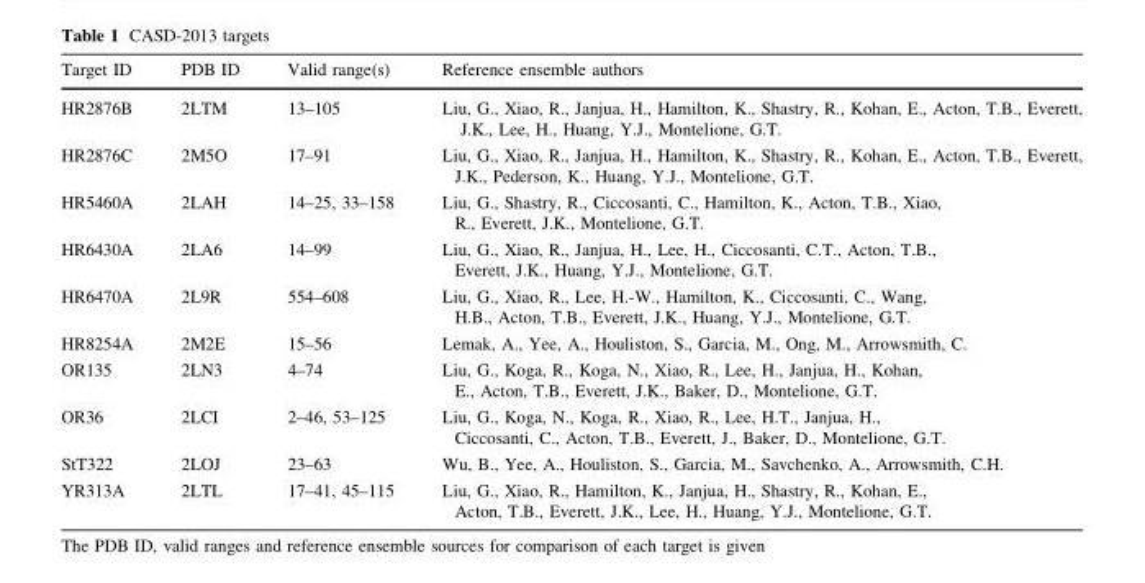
<table><thead><tr><td>Target ID</td><td>PDB ID</td><td>Valid range(s)</td><td>Reference ensemble authors</td></tr></thead><tbody><tr><td>HR2876B</td><td>2LTM</td><td>13–105</td><td>Liu, G., Xiao, R., Janjua, H., Hamilton, K., Shastry, R., Kohan, E., Acton, T.B., Everett, J.K., Lee, H., Huang, Y.J., Montelione, G.T.</td></tr><tr><td>HR2876C</td><td>2M5O</td><td>17–91</td><td>Liu, G., Xiao, R., Janjua, H., Hamilton, K., Shastry, R., Kohan, E., Acton, T.B., Everett, J.K., Pederson, K., Huang, Y.J., Montelione, G.T.</td></tr><tr><td>HR5460A</td><td>2LAH</td><td>14–25, 33–158</td><td>Liu, G., Shastry, R., Ciccosanti, C., Hamilton, K., Acton, T.B., Xiao, R., Everett, J.K., Montelione, G.T.</td></tr><tr><td>HR6430A</td><td>2LA6</td><td>14–99</td><td>Liu, G., Xiao, R., Janjua, H., Lee, H., Ciccosanti, C.T., Acton, T.B., Everett, J.K., Huang, Y.J., Montelione, G.T.</td></tr><tr><td>HR6470A</td><td>2L9R</td><td>554–608</td><td>Liu, G., Xiao, R., Lee, H.-W., Hamilton, K., Ciccosanti, C., Wang, H.B., Acton, T.B., Everett, J.K., Huang, Y.J., Montelione, G.T.</td></tr><tr><td>HR8254A</td><td>2M2E</td><td>15–56</td><td>Lemak, A., Yee, A., Houliston, S., Garcia, M., Ong, M., Arrowsmith, C.</td></tr><tr><td>OR135</td><td>2LN3</td><td>4–74</td><td>Liu, G., Koga, R., Koga, N., Xiao, R., Lee, H., Janjua, H., Kohan, E., Acton, T.B., Everett, J.K., Baker, D., Montelione, G.T.</td></tr><tr><td>OR36</td><td>2LCI</td><td>2–46, 53–125</td><td>Liu, G., Koga, N., Koga, R., Xiao, R., Lee, H.T., Janjua, H., Ciccosanti, C., Acton, T.B., Everett, J., Baker, D., Montelione, G.T.</td></tr><tr><td>StT322</td><td>2LOJ</td><td>23–63</td><td>Wu, B., Yee, A., Houliston, S., Garcia, M., Savchenko, A., Arrowsmith, C.H.</td></tr><tr><td>YR313A</td><td>2LTL</td><td>17–41, 45–115</td><td>Liu, G., Xiao, R., Hamilton, K., Janjua, H., Shastry, R., Kohan, E., Acton, T.B., Everett, J.K., Lee, H., Huang, Y.J., Montelione, G.T.</td></tr></tbody></table>